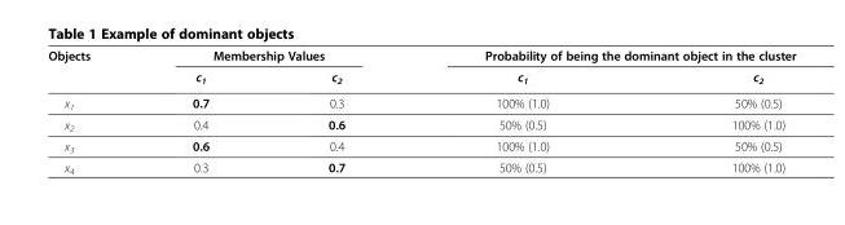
<table><thead><tr><td rowspan="2">Objects</td><td colspan="2">Membership Values</td><td colspan="2">Probability of being the dominant object in the cluster</td></tr><tr><td>c<sub>1</sub></td><td>c<sub>2</sub></td><td>c<sub>1</sub></td><td>c<sub>2</sub></td></tr></thead><tbody><tr><td>x<sub>1</sub></td><td>0.7</td><td>0.3</td><td>100% (1.0)</td><td>50% (0.5)</td></tr><tr><td>x<sub>2</sub></td><td>0.4</td><td>0.6</td><td>50% (0.5)</td><td>100% (1.0)</td></tr><tr><td>x<sub>3</sub></td><td>0.6</td><td>0.4</td><td>100% (1.0)</td><td>50% (0.5)</td></tr><tr><td>x<sub>4</sub></td><td>0.3</td><td>0.7</td><td>50% (0.5)</td><td>100% (1.0)</td></tr></tbody></table>